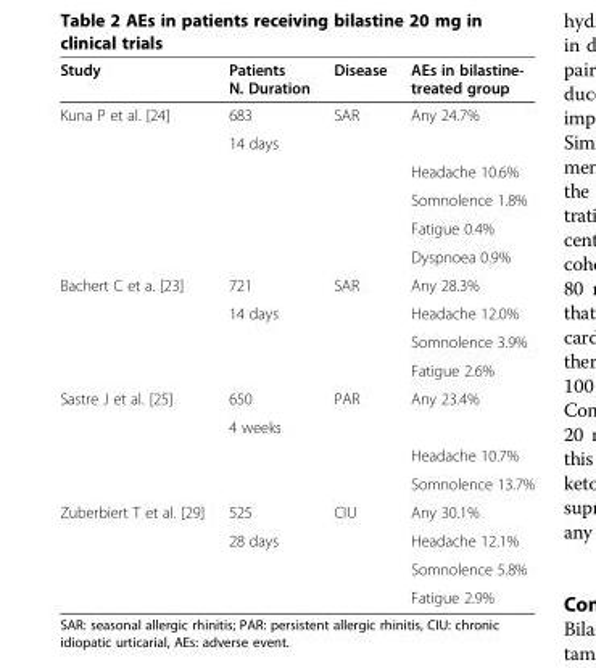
<table><thead><tr><td>Study</td><td>Patients N. Duration</td><td>Disease</td><td>AEs in bilastine- treated group</td></tr></thead><tbody><tr><td rowspan="6">Kuna P et al. [24]</td><td>683</td><td>SAR</td><td>Any 24.7%</td></tr><tr><td>14 days</td><td></td><td></td></tr><tr><td></td><td></td><td>Headache 10.6%</td></tr><tr><td></td><td></td><td>Somnolence 1.8%</td></tr><tr><td></td><td></td><td>Fatigue 0.4%</td></tr><tr><td></td><td></td><td>Dyspnoea 0.9%</td></tr><tr><td rowspan="4">Bachert C et a. [23]</td><td>721</td><td>SAR</td><td>Any 28.3%</td></tr><tr><td>14 days</td><td></td><td>Headache 12.0%</td></tr><tr><td></td><td></td><td>Somnolence 3.9%</td></tr><tr><td></td><td></td><td>Fatigue 2.6%</td></tr><tr><td rowspan="4">Sastre J et al. [25]</td><td>650</td><td>PAR</td><td>Any 23.4%</td></tr><tr><td>4 weeks</td><td></td><td></td></tr><tr><td></td><td></td><td>Headache 10.7%</td></tr><tr><td></td><td></td><td>Somnolence 13.7%</td></tr><tr><td rowspan="4">Zuberbiert T et al. [29]</td><td>525</td><td>CIU</td><td>Any 30.1%</td></tr><tr><td>28 days</td><td></td><td>Headache 12.1%</td></tr><tr><td></td><td></td><td>Somnolence 5.8%</td></tr><tr><td></td><td></td><td>Fatigue 2.9%</td></tr></tbody></table>